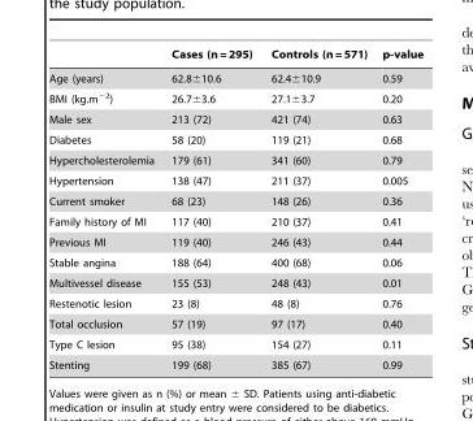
<table><thead><tr><td></td><td>Cases (n = 295)</td><td>Controls (n = 571)</td><td>p-value</td></tr></thead><tbody><tr><td>Age (years)</td><td>62.8±10.6</td><td>62.4±10.9</td><td>0.59</td></tr><tr><td>BMI (kg.m<sup>−2</sup>)</td><td>26.7±3.6</td><td>27.1±3.7</td><td>0.20</td></tr><tr><td>Male sex</td><td>213 (72)</td><td>421 (74)</td><td>0.63</td></tr><tr><td>Diabetes</td><td>58 (20)</td><td>119 (21)</td><td>0.68</td></tr><tr><td>Hypercholesterolemia</td><td>179 (61)</td><td>341 (60)</td><td>0.79</td></tr><tr><td>Hypertension</td><td>138 (47)</td><td>211 (37)</td><td>0.005</td></tr><tr><td>Current smoker</td><td>68 (23)</td><td>148 (26)</td><td>0.36</td></tr><tr><td>Family history of MI</td><td>117 (40)</td><td>210 (37)</td><td>0.41</td></tr><tr><td>Previous MI</td><td>119 (40)</td><td>246 (43)</td><td>0.44</td></tr><tr><td>Stable angina</td><td>188 (64)</td><td>400 (68)</td><td>0.06</td></tr><tr><td>Multivessel disease</td><td>155 (53)</td><td>248 (43)</td><td>0.01</td></tr><tr><td>Restenotic lesion</td><td>23 (8)</td><td>48 (8)</td><td>0.76</td></tr><tr><td>Total occlusion</td><td>57 (19)</td><td>97 (17)</td><td>0.40</td></tr><tr><td>Type C lesion</td><td>95 (38)</td><td>154 (27)</td><td>0.11</td></tr><tr><td>Stenting</td><td>199 (68)</td><td>385 (67)</td><td>0.99</td></tr></tbody></table>